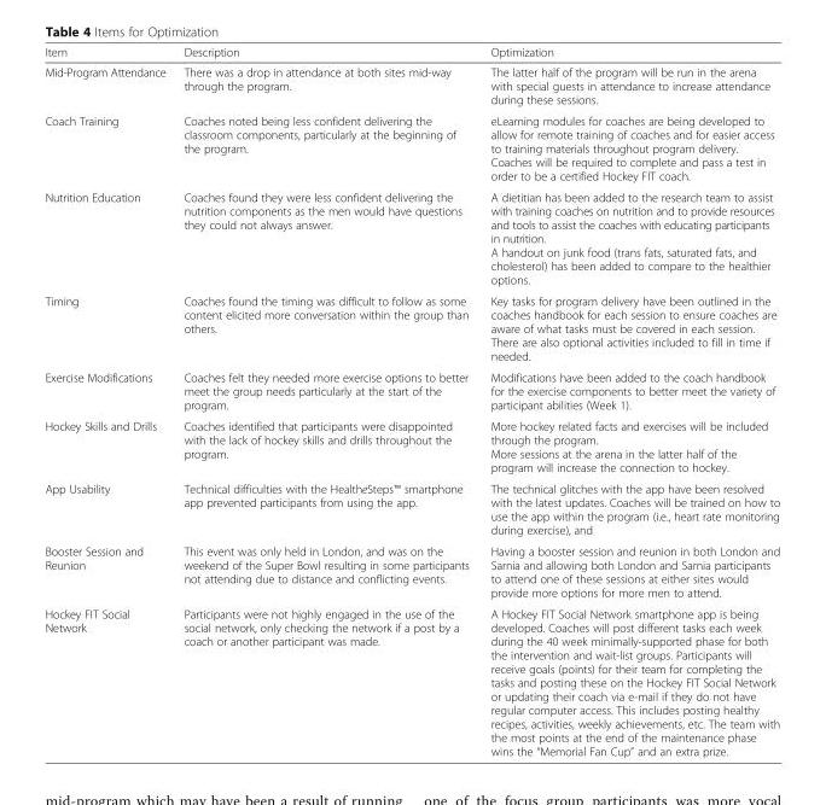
<table><thead><tr><td>Item</td><td>Description</td><td>Optimization</td></tr></thead><tbody><tr><td>Mid-Program Attendance</td><td>There was a drop in attendance at both sites mid-way through the program.</td><td>The latter half of the program will be run in the arena with special guests in attendance to increase attendance during these sessions.</td></tr><tr><td>Coach Training</td><td>Coaches noted being less confident delivering the classroom components, particularly at the beginning of the program.</td><td>eLearning modules for coaches are being developed to allow for remote training of coaches and for easier access to training materials throughout program delivery. Coaches will be required to complete and pass a test in order to be a certified Hockey FIT coach.</td></tr><tr><td>Nutrition Education</td><td>Coaches found they were less confident delivering the nutrition components as the men would have questions they could not always answer.</td><td>A dietitian has been added to the research team to assist with training coaches on nutrition and to provide resources and tools to assist the coaches with educating participants in nutrition. A handout on junk food (trans fats, saturated fats, and cholesterol) has been added to compare to the healthier options.</td></tr><tr><td>Timing</td><td>Coaches found the timing was difficult to follow as some content elicited more conversation within the group than others.</td><td>Key tasks for program delivery have been outlined in the coaches handbook for each session to ensure coaches are aware of what tasks must be covered in each session. There are also optional activities included to fill in time if needed.</td></tr><tr><td>Exercise Modifications</td><td>Coaches felt they needed more exercise options to better meet the group needs particularly at the start of the program.</td><td>Modifications have been added to the coach handbook for the exercise components to better meet the variety of participant abilities (Week 1).</td></tr><tr><td>Hockey Skills and Drills</td><td>Coaches identified that participants were disappointed with the lack of hockey skills and drills throughout the program.</td><td>More hockey related facts and exercises will be included through the program. More sessions at the arena in the latter half of the program will increase the connection to hockey.</td></tr><tr><td>App Usability</td><td>Technical difficulties with the HealtheSteps™ smartphone app prevented participants from using the app.</td><td>The technical glitches with the app have been resolved with the latest updates. Coaches will be trained on how to use the app within the program (i.e., heart rate monitoring during exercise), and</td></tr><tr><td>Booster Session and Reunion</td><td>This event was only held in London, and was on the weekend of the Super Bowl resulting in some participants not attending due to distance and conflicting events.</td><td>Having a booster session and reunion in both London and Sarnia and allowing both London and Sarnia participants to attend one of these sessions at either sites would provide more options for more men to attend.</td></tr><tr><td>Hockey FIT Social Network</td><td>Participants were not highly engaged in the use of the social network, only checking the network if a post by a coach or another participant was made.</td><td>A Hockey FIT Social Network smartphone app is being developed. Coaches will post different tasks each week during the 40 week minimally-supported phase for both the intervention and wait-list groups. Participants will receive goals (points) for their team for completing the tasks and posting these on the Hockey FIT Social Network or updating their coach via e-mail if they do not have regular computer access. This includes posting healthy recipes, activities, weekly achievements, etc. The team with the most points at the end of the maintenance phase wins the “Memorial Fan Cup” and an extra prize.</td></tr></tbody></table>